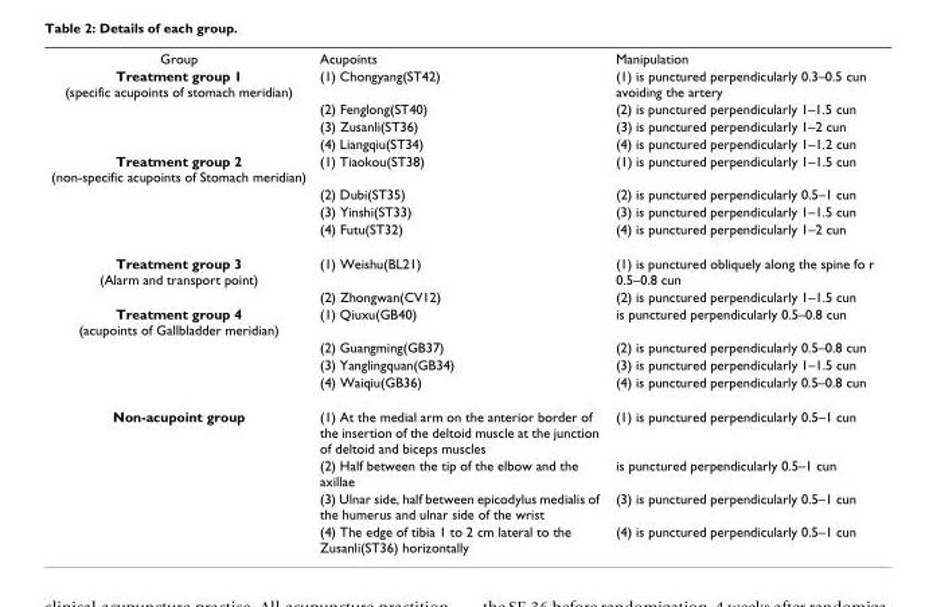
<table><tbody><tr><td>Group</td><td>Acupoints</td><td>Manipulation</td></tr><tr><td rowspan="4">Treatment group 1 (specific acupoints of stomach meridian)</td><td>(1) Chongyang(ST42)</td><td>(1) is punctured perpendicularly 0.3–0.5 cun avoiding the artery</td></tr><tr><td>(2) Fenglong(ST40)</td><td>(2) is punctured perpendicularly 1–1.5 cun</td></tr><tr><td>(3) Zusanli(ST36)</td><td>(3) is punctured perpendicularly 1–2 cun</td></tr><tr><td>(4) Liangqiu(ST34)</td><td>(4) is punctured perpendicularly 1–1.2 cun</td></tr><tr><td rowspan="4">Treatment group 2 (non-specific acupoints of Stomach meridian)</td><td>(1) Tiaokou(ST38)</td><td>(1) is punctured perpendicularly 1–1.5 cun</td></tr><tr><td>(2) Dubi(ST35)</td><td>(2) is punctured perpendicularly 0.5–1 cun</td></tr><tr><td>(3) Yinshi(ST33)</td><td>(3) is punctured perpendicularly 1–1.5 cun</td></tr><tr><td>(4) Futu(ST32)</td><td>(4) is punctured perpendicularly 1–2 cun</td></tr><tr><td rowspan="2">Treatment group 3 (Alarm and transport point)</td><td>(1) Weishu(BL21)</td><td>(1) is punctured obliquely along the spine fo r 0.5–0.8 cun</td></tr><tr><td>(2) Zhongwan(CV12)</td><td>(2) is punctured perpendicularly 1–1.5 cun</td></tr><tr><td rowspan="4">Treatment group 4 (acupoints of Gallbladder meridian)</td><td>(1) Qiuxu(GB40)</td><td>is punctured perpendicularly 0.5–0.8 cun</td></tr><tr><td>(2) Guangming(GB37)</td><td>(2) is punctured perpendicularly 0.5–0.8 cun</td></tr><tr><td>(3) Yanglingquan(GB34)</td><td>(3) is punctured perpendicularly 1–1.5 cun</td></tr><tr><td>(4) Waiqiu(GB36)</td><td>(4) is punctured perpendicularly 0.5–0.8 cun</td></tr><tr><td rowspan="4">Non-acupoint group</td><td>(1) At the medial arm on the anterior border of the insertion of the deltoid muscle at the junction of deltoid and biceps muscles</td><td>(1) is punctured perpendicularly 0.5–1 cun</td></tr><tr><td>(2) Half between the tip of the elbow and the axillae</td><td>is punctured perpendicularly 0.5–1 cun</td></tr><tr><td>(3) Ulnar side, half between epicodylus medialis of the humerus and ulnar side of the wrist</td><td>(3) is punctured perpendicularly 0.5–1 cun</td></tr><tr><td>(4) The edge of tibia 1 to 2 cm lateral to the Zusanli(ST36) horizontally</td><td>(4) is punctured perpendicularly 0.5–1 cun</td></tr></tbody></table>